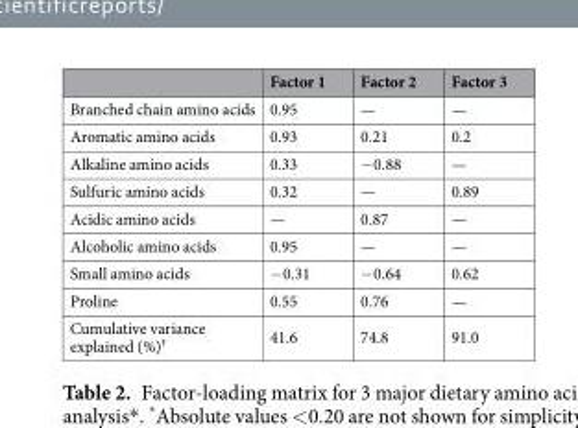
<table><thead><tr><td></td><td>Factor 1</td><td>Factor 2</td><td>Factor 3</td></tr></thead><tbody><tr><td>Branched chain amino acids</td><td>0.95</td><td>—</td><td>—</td></tr><tr><td>Aromatic amino acids</td><td>0.93</td><td>0.21</td><td>0.2</td></tr><tr><td>Alkaline amino acids</td><td>0.33</td><td>−0.88</td><td>—</td></tr><tr><td>Sulfuric amino acids</td><td>0.32</td><td>—</td><td>0.89</td></tr><tr><td>Acidic amino acids</td><td>—</td><td>0.87</td><td>—</td></tr><tr><td>Alcoholic amino acids</td><td>0.95</td><td>—</td><td>—</td></tr><tr><td>Small amino acids</td><td>−0.31</td><td>−0.64</td><td>0.62</td></tr><tr><td>Proline</td><td>0.55</td><td>0.76</td><td>—</td></tr><tr><td>Cumulative variance explained (%)<sup>†</sup></td><td>41.6</td><td>74.8</td><td>91.0</td></tr></tbody></table>